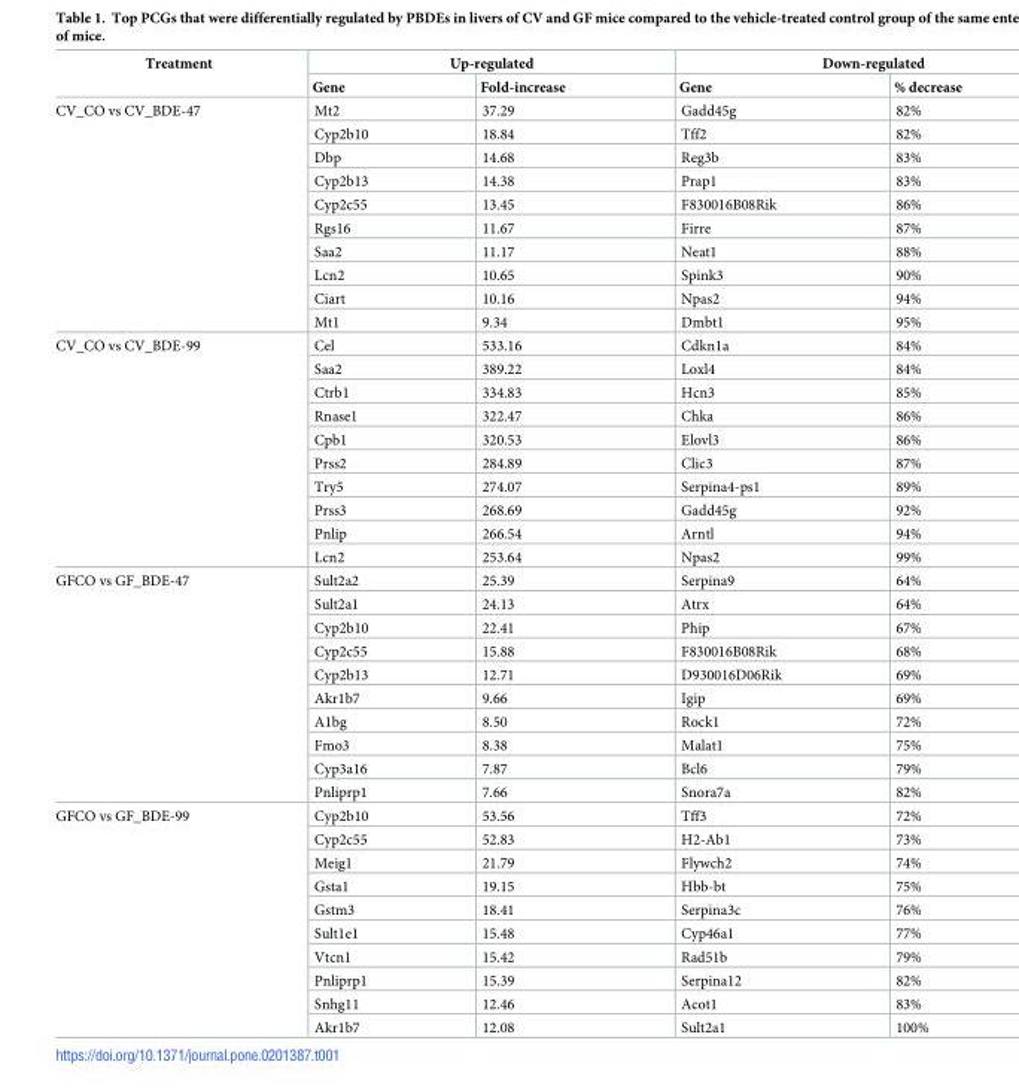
<table><thead><tr><td rowspan="2">Treatment</td><td colspan="2">Up-regulated</td><td colspan="2">Down-regulated</td></tr><tr><td>Gene</td><td>Fold-increase</td><td>Gene</td><td>% decrease</td></tr></thead><tbody><tr><td rowspan="10">CV_CO vs CV_BDE-47</td><td>Mt2</td><td>37.29</td><td>Gadd45g</td><td>82%</td></tr><tr><td>Cyp2b10</td><td>18.84</td><td>Tff2</td><td>82%</td></tr><tr><td>Dbp</td><td>14.68</td><td>Reg3b</td><td>83%</td></tr><tr><td>Cyp2b13</td><td>14.38</td><td>Prap1</td><td>83%</td></tr><tr><td>Cyp2c55</td><td>13.45</td><td>F830016B08Rik</td><td>86%</td></tr><tr><td>Rgs16</td><td>11.67</td><td>Firre</td><td>87%</td></tr><tr><td>Saa2</td><td>11.17</td><td>Neat1</td><td>88%</td></tr><tr><td>Lcn2</td><td>10.65</td><td>Spink3</td><td>90%</td></tr><tr><td>Ciart</td><td>10.16</td><td>Npas2</td><td>94%</td></tr><tr><td>Mt1</td><td>9.34</td><td>Dmbt1</td><td>95%</td></tr><tr><td rowspan="10">CV_CO vs CV_BDE-99</td><td>Cel</td><td>533.16</td><td>Cdkn1a</td><td>84%</td></tr><tr><td>Saa2</td><td>389.22</td><td>Loxl4</td><td>84%</td></tr><tr><td>Ctrb1</td><td>334.83</td><td>Hcn3</td><td>85%</td></tr><tr><td>Rnase1</td><td>322.47</td><td>Chka</td><td>86%</td></tr><tr><td>Cpb1</td><td>320.53</td><td>Elovl3</td><td>86%</td></tr><tr><td>Prss2</td><td>284.89</td><td>Clic3</td><td>87%</td></tr><tr><td>Try5</td><td>274.07</td><td>Serpina4-ps1</td><td>89%</td></tr><tr><td>Prss3</td><td>268.69</td><td>Gadd45g</td><td>92%</td></tr><tr><td>Pnlip</td><td>266.54</td><td>Arntl</td><td>94%</td></tr><tr><td>Lcn2</td><td>253.64</td><td>Npas2</td><td>99%</td></tr><tr><td rowspan="10">GFCO vs GF_BDE-47</td><td>Sult2a2</td><td>25.39</td><td>Serpina9</td><td>64%</td></tr><tr><td>Sult2a1</td><td>24.13</td><td>Atrx</td><td>64%</td></tr><tr><td>Cyp2b10</td><td>22.41</td><td>Phip</td><td>67%</td></tr><tr><td>Cyp2c55</td><td>15.88</td><td>F830016B08Rik</td><td>68%</td></tr><tr><td>Cyp2b13</td><td>12.71</td><td>D930016D06Rik</td><td>69%</td></tr><tr><td>Akr1b7</td><td>9.66</td><td>Igip</td><td>69%</td></tr><tr><td>A1bg</td><td>8.50</td><td>Rock1</td><td>72%</td></tr><tr><td>Fmo3</td><td>8.38</td><td>Malat1</td><td>75%</td></tr><tr><td>Cyp3a16</td><td>7.87</td><td>Bcl6</td><td>79%</td></tr><tr><td>Pnliprp1</td><td>7.66</td><td>Snora7a</td><td>82%</td></tr><tr><td rowspan="10">GFCO vs GF_BDE-99</td><td>Cyp2b10</td><td>53.56</td><td>Tff3</td><td>72%</td></tr><tr><td>Cyp2c55</td><td>52.83</td><td>H2-Ab1</td><td>73%</td></tr><tr><td>Meig1</td><td>21.79</td><td>Flywch2</td><td>74%</td></tr><tr><td>Gsta1</td><td>19.15</td><td>Hbb-bt</td><td>75%</td></tr><tr><td>Gstm3</td><td>18.41</td><td>Serpina3c</td><td>76%</td></tr><tr><td>Sult1e1</td><td>15.48</td><td>Cyp46a1</td><td>77%</td></tr><tr><td>Vtcn1</td><td>15.42</td><td>Rad51b</td><td>79%</td></tr><tr><td>Pnliprp1</td><td>15.39</td><td>Serpina12</td><td>82%</td></tr><tr><td>Snhg11</td><td>12.46</td><td>Acot1</td><td>83%</td></tr><tr><td>Akr1b7</td><td>12.08</td><td>Sult2a1</td><td>100%</td></tr></tbody></table>